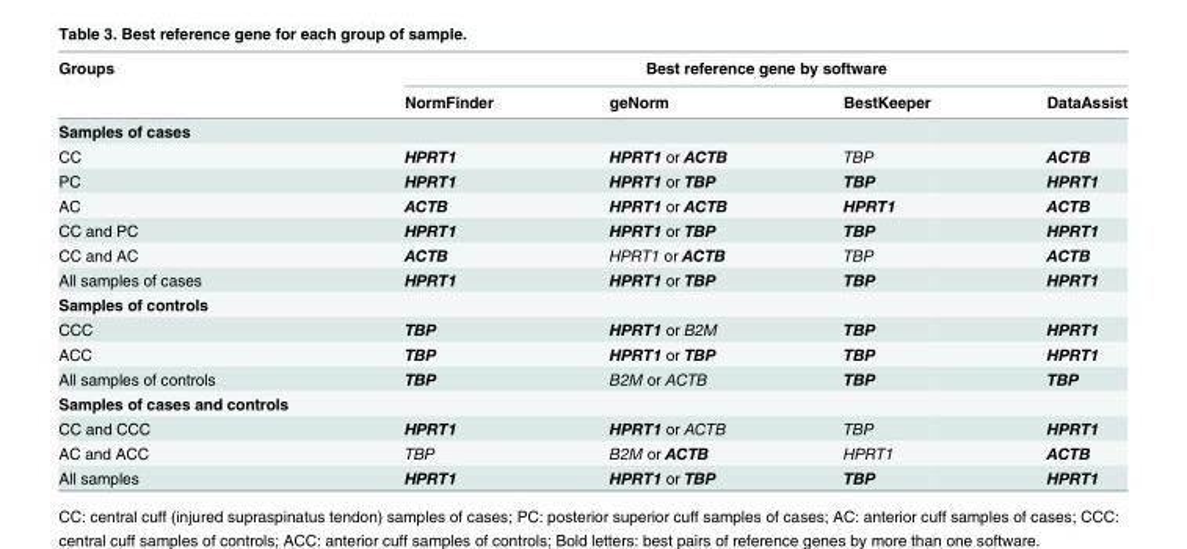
<table><thead><tr><td rowspan="2">Groups</td><td colspan="4">Best reference gene by software</td></tr><tr><td>NormFinder</td><td>geNorm</td><td>BestKeeper</td><td>DataAssist</td></tr></thead><tbody><tr><td colspan="5">Samples of cases</td></tr><tr><td>CC</td><td>HPRT1</td><td>HPRT1 or ACTB</td><td>TBP</td><td>ACTB</td></tr><tr><td>PC</td><td>HPRT1</td><td>HPRT1 or TBP</td><td>TBP</td><td>HPRT1</td></tr><tr><td>AC</td><td>ACTB</td><td>HPRT1 or ACTB</td><td>HPRT1</td><td>ACTB</td></tr><tr><td>CC and PC</td><td>HPRT1</td><td>HPRT1 or TBP</td><td>TBP</td><td>HPRT1</td></tr><tr><td>CC and AC</td><td>ACTB</td><td>HPRT1 or ACTB</td><td>TBP</td><td>ACTB</td></tr><tr><td>All samples of cases</td><td>HPRT1</td><td>HPRT1 or TBP</td><td>TBP</td><td>HPRT1</td></tr><tr><td colspan="5">Samples of controls</td></tr><tr><td>CCC</td><td>TBP</td><td>HPRT1 or B2M</td><td>TBP</td><td>HPRT1</td></tr><tr><td>ACC</td><td>TBP</td><td>HPRT1 or TBP</td><td>TBP</td><td>HPRT1</td></tr><tr><td>All samples of controls</td><td>TBP</td><td>B2M or ACTB</td><td>TBP</td><td>TBP</td></tr><tr><td colspan="5">Samples of cases and controls</td></tr><tr><td>CC and CCC</td><td>HPRT1</td><td>HPRT1 or ACTB</td><td>TBP</td><td>HPRT1</td></tr><tr><td>AC and ACC</td><td>TBP</td><td>B2M or ACTB</td><td>HPRT1</td><td>ACTB</td></tr><tr><td>All samples</td><td>HPRT1</td><td>HPRT1 or TBP</td><td>TBP</td><td>HPRT1</td></tr></tbody></table>